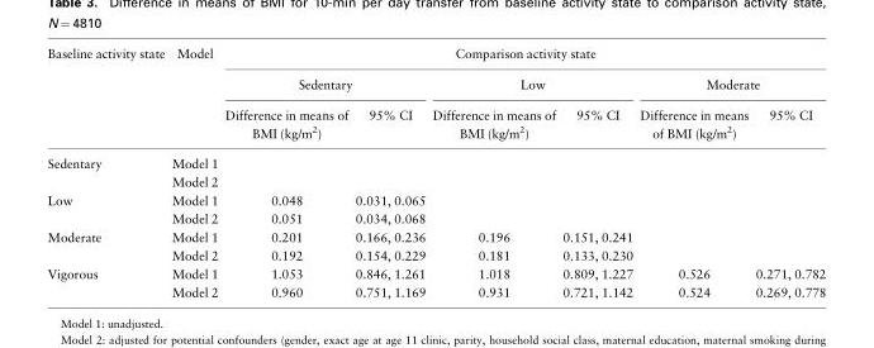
<table><thead><tr><td rowspan="3">Baseline activity state</td><td rowspan="3">Model</td><td colspan="6">Comparison activity state</td></tr><tr><td colspan="2">Sedentary</td><td colspan="2">Low</td><td colspan="2">Moderate</td></tr><tr><td>Difference in means of BMI (kg/m<sup>2</sup>)</td><td>95% CI</td><td>Difference in means of BMI (kg/m<sup>2</sup>)</td><td>95% CI</td><td>Difference in means of BMI (kg/m<sup>2</sup>)</td><td>95% CI</td></tr></thead><tbody><tr><td rowspan="2">Sedentary</td><td>Model 1</td><td rowspan="2" colspan="2"></td><td rowspan="2" colspan="2"></td><td rowspan="2" colspan="2"></td></tr><tr><td>Model 2</td></tr><tr><td rowspan="2">Low</td><td>Model 1</td><td>0.048</td><td>0.031, 0.065</td><td rowspan="2" colspan="2"></td><td rowspan="2" colspan="2"></td></tr><tr><td>Model 2</td><td>0.051</td><td>0.034, 0.068</td></tr><tr><td rowspan="2">Moderate</td><td>Model 1</td><td>0.201</td><td>0.166, 0.236</td><td>0.196</td><td>0.151, 0.241</td><td rowspan="2" colspan="2"></td></tr><tr><td>Model 2</td><td>0.192</td><td>0.154, 0.229</td><td>0.181</td><td>0.133, 0.230</td></tr><tr><td rowspan="2">Vigorous</td><td>Model 1</td><td>1.053</td><td>0.846, 1.261</td><td>1.018</td><td>0.809, 1.227</td><td>0.526</td><td>0.271, 0.782</td></tr><tr><td>Model 2</td><td>0.960</td><td>0.751, 1.169</td><td>0.931</td><td>0.721, 1.142</td><td>0.524</td><td>0.269, 0.778</td></tr></tbody></table>